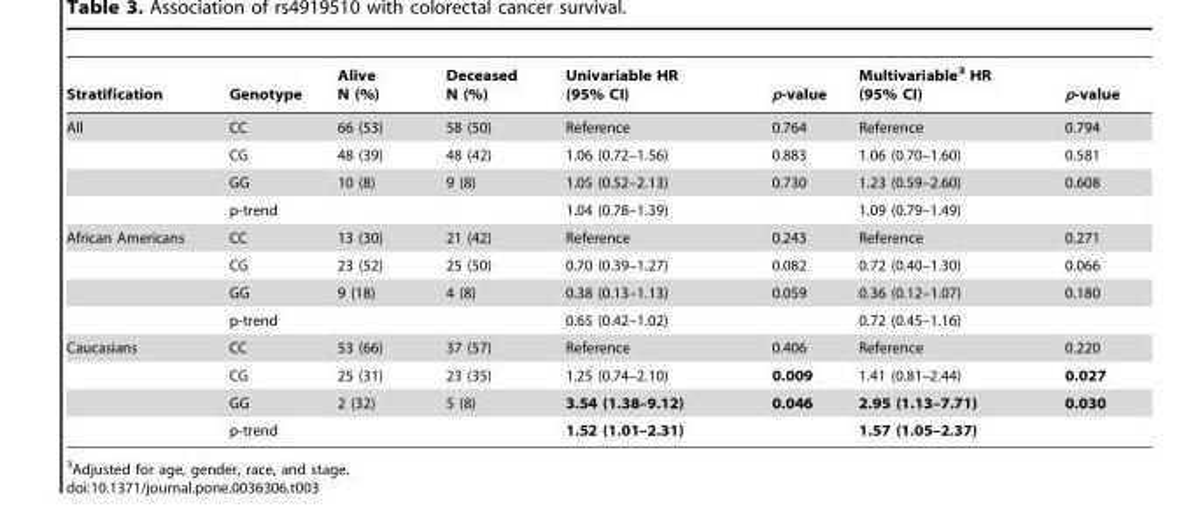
<table><thead><tr><td>Stratification</td><td>Genotype</td><td>Alive N (%)</td><td>Deceased N (%)</td><td>Univariable HR (95% CI)</td><td>p-value</td><td>Multivariable<sup>3</sup> HR (95% CI)</td><td>p-value</td></tr></thead><tbody><tr><td rowspan="4">All</td><td>CC</td><td>66 (53)</td><td>58 (50)</td><td>Reference</td><td>0.764</td><td>Reference</td><td>0.794</td></tr><tr><td>CG</td><td>48 (39)</td><td>48 (42)</td><td>1.06 (0.72–1.56)</td><td>0.883</td><td>1.06 (0.70–1.60)</td><td>0.581</td></tr><tr><td>GG</td><td>10 (8)</td><td>9 (8)</td><td>1.05 (0.52–2.13)</td><td>0.730</td><td>1.23 (0.59–2.60)</td><td>0.608</td></tr><tr><td>p-trend</td><td></td><td></td><td>1.04 (0.78–1.39)</td><td></td><td>1.09 (0.79–1.49)</td><td></td></tr><tr><td rowspan="4">African Americans</td><td>CC</td><td>13 (30)</td><td>21 (42)</td><td>Reference</td><td>0.243</td><td>Reference</td><td>0.271</td></tr><tr><td>CG</td><td>23 (52)</td><td>25 (50)</td><td>0.70 (0.39–1.27)</td><td>0.082</td><td>0.72 (0.40–1.30)</td><td>0.066</td></tr><tr><td>GG</td><td>9 (18)</td><td>4 (8)</td><td>0.38 (0.13–1.13)</td><td>0.059</td><td>0.36 (0.12–1.07)</td><td>0.180</td></tr><tr><td>p-trend</td><td></td><td></td><td>0.65 (0.42–1.02)</td><td></td><td>0.72 (0.45–1.16)</td><td></td></tr><tr><td rowspan="4">Caucasians</td><td>CC</td><td>53 (66)</td><td>37 (57)</td><td>Reference</td><td>0.406</td><td>Reference</td><td>0.220</td></tr><tr><td>CG</td><td>25 (31)</td><td>23 (35)</td><td>1.25 (0.74–2.10)</td><td>0.009</td><td>1.41 (0.81–2.44)</td><td>0.027</td></tr><tr><td>GG</td><td>2 (32)</td><td>5 (8)</td><td>3.54 (1.38–9.12)</td><td>0.046</td><td>2.95 (1.13–7.71)</td><td>0.030</td></tr><tr><td>p-trend</td><td></td><td></td><td>1.52 (1.01–2.31)</td><td></td><td>1.57 (1.05–2.37)</td><td></td></tr></tbody></table>